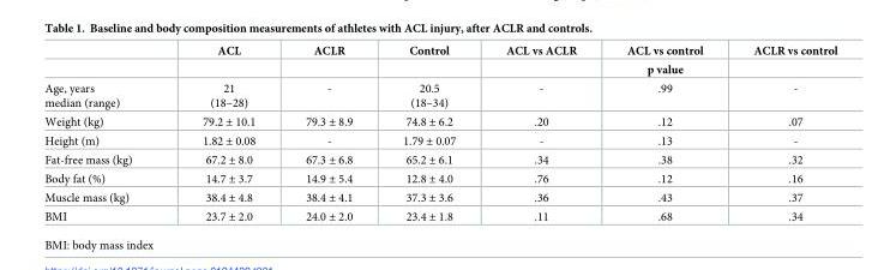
<table><thead><tr><td rowspan="2"></td><td rowspan="2">ACL</td><td rowspan="2">ACLR</td><td rowspan="2">Control</td><td rowspan="2">ACL vs ACLR</td><td rowspan="2">ACL vs control p value</td><td rowspan="2">ACLR vs control</td></tr><tr></tr></thead><tbody><tr><td>Age, years median (range)</td><td>21 (18–28)</td><td>-</td><td>20.5 (18–34)</td><td>-</td><td>.99</td><td>-</td></tr><tr><td>Weight (kg)</td><td>79.2 ± 10.1</td><td>79.3 ± 8.9</td><td>74.8 ± 6.2</td><td>.20</td><td>.12</td><td>.07</td></tr><tr><td>Height (m)</td><td>1.82 ± 0.08</td><td>-</td><td>1.79 ± 0.07</td><td>-</td><td>.13</td><td>-</td></tr><tr><td>Fat-free mass (kg)</td><td>67.2 ± 8.0</td><td>67.3 ± 6.8</td><td>65.2 ± 6.1</td><td>.34</td><td>.38</td><td>.32</td></tr><tr><td>Body fat (%)</td><td>14.7 ± 3.7</td><td>14.9 ± 5.4</td><td>12.8 ± 4.0</td><td>.76</td><td>.12</td><td>.16</td></tr><tr><td>Muscle mass (kg)</td><td>38.4 ± 4.8</td><td>38.4 ± 4.1</td><td>37.3 ± 3.6</td><td>.36</td><td>.43</td><td>.37</td></tr><tr><td>BMI</td><td>23.7 ± 2.0</td><td>24.0 ± 2.0</td><td>23.4 ± 1.8</td><td>.11</td><td>.68</td><td>.34</td></tr></tbody></table>